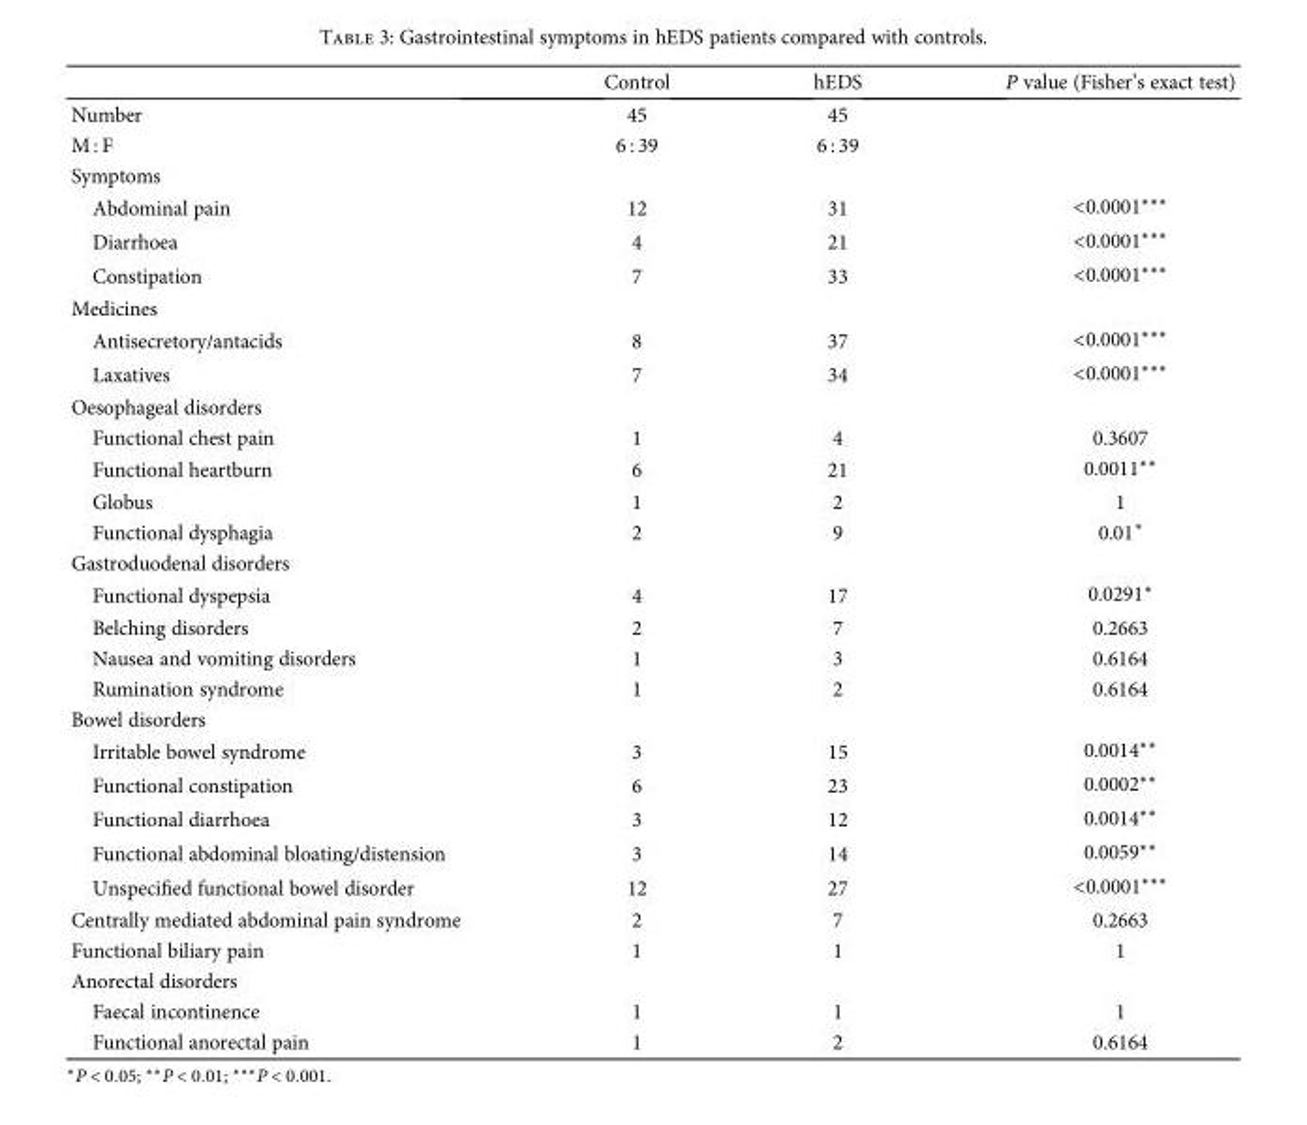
<table><thead><tr><td></td><td>Control</td><td>hEDS</td><td>P value (Fisher’s exact test)</td></tr></thead><tbody><tr><td>Number</td><td>45</td><td>45</td><td></td></tr><tr><td>M : F</td><td>6 : 39</td><td>6 : 39</td><td></td></tr><tr><td colspan="4">Symptoms</td></tr><tr><td>Abdominal pain</td><td>12</td><td>31</td><td>&lt;0.0001∗∗∗</td></tr><tr><td>Diarrhoea</td><td>4</td><td>21</td><td>&lt;0.0001∗∗∗</td></tr><tr><td>Constipation</td><td>7</td><td>33</td><td>&lt;0.0001∗∗∗</td></tr><tr><td colspan="4">Medicines</td></tr><tr><td>Antisecretory/antacids</td><td>8</td><td>37</td><td>&lt;0.0001∗∗∗</td></tr><tr><td>Laxatives</td><td>7</td><td>34</td><td>&lt;0.0001∗∗∗</td></tr><tr><td colspan="4">Oesophageal disorders</td></tr><tr><td>Functional chest pain</td><td>1</td><td>4</td><td>0.3607</td></tr><tr><td>Functional heartburn</td><td>6</td><td>21</td><td>0.0011∗∗</td></tr><tr><td>Globus</td><td>1</td><td>2</td><td>1</td></tr><tr><td>Functional dysphagia</td><td>2</td><td>9</td><td>0.01∗</td></tr><tr><td colspan="4">Gastroduodenal disorders</td></tr><tr><td>Functional dyspepsia</td><td>4</td><td>17</td><td>0.0291∗</td></tr><tr><td>Belching disorders</td><td>2</td><td>7</td><td>0.2663</td></tr><tr><td>Nausea and vomiting disorders</td><td>1</td><td>3</td><td>0.6164</td></tr><tr><td>Rumination syndrome</td><td>1</td><td>2</td><td>0.6164</td></tr><tr><td colspan="4">Bowel disorders</td></tr><tr><td>Irritable bowel syndrome</td><td>3</td><td>15</td><td>0.0014∗∗</td></tr><tr><td>Functional constipation</td><td>6</td><td>23</td><td>0.0002∗∗</td></tr><tr><td>Functional diarrhoea</td><td>3</td><td>12</td><td>0.0014∗∗</td></tr><tr><td>Functional abdominal bloating/distension</td><td>3</td><td>14</td><td>0.0059∗∗</td></tr><tr><td>Unspecified functional bowel disorder</td><td>12</td><td>27</td><td>&lt;0.0001∗∗∗</td></tr><tr><td>Centrally mediated abdominal pain syndrome</td><td>2</td><td>7</td><td>0.2663</td></tr><tr><td>Functional biliary pain</td><td>1</td><td>1</td><td>1</td></tr><tr><td colspan="4">Anorectal disorders</td></tr><tr><td>Faecal incontinence</td><td>1</td><td>1</td><td>1</td></tr><tr><td>Functional anorectal pain</td><td>1</td><td>2</td><td>0.6164</td></tr></tbody></table>